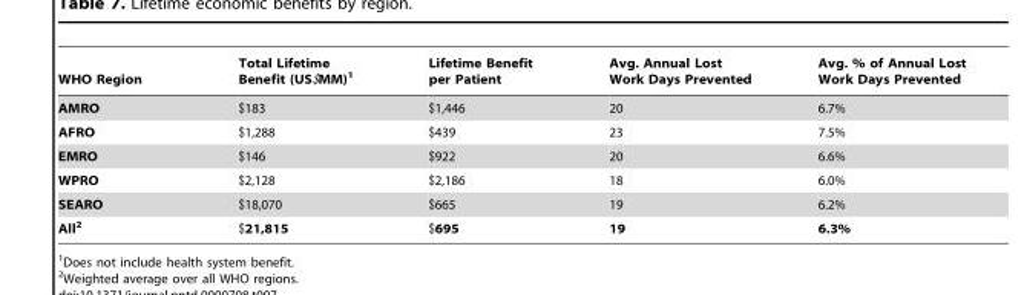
<table><thead><tr><td>WHO Region</td><td>Total Lifetime Benefit (US$MM)<sup>1</sup></td><td>Lifetime Benefit per Patient</td><td>Avg. Annual Lost Work Days Prevented</td><td>Avg. % of Annual Lost Work Days Prevented</td></tr></thead><tbody><tr><td>AMRO</td><td>$183</td><td>$1,446</td><td>20</td><td>6.7%</td></tr><tr><td>AFRO</td><td>$1,288</td><td>$439</td><td>23</td><td>7.5%</td></tr><tr><td>EMRO</td><td>$146</td><td>$922</td><td>20</td><td>6.6%</td></tr><tr><td>WPRO</td><td>$2,128</td><td>$2,186</td><td>18</td><td>6.0%</td></tr><tr><td>SEARO</td><td>$18,070</td><td>$665</td><td>19</td><td>6.2%</td></tr><tr><td>All2</td><td>$21,815</td><td>$695</td><td>19</td><td>6.3%</td></tr></tbody></table>